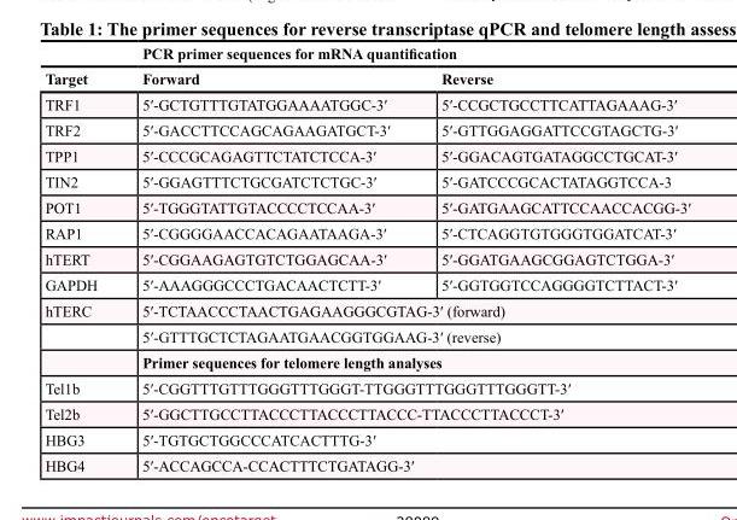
<table><thead><tr><td rowspan="2">Target</td><td colspan="2">PCR primer sequences for mRNA quantification</td></tr><tr><td>Forward</td><td>Reverse</td></tr></thead><tbody><tr><td>TRF1</td><td>5′-GCTGTTTGTATGGAAAATGGC-3′</td><td>5′-CCGCTGCCTTCATTAGAAAG-3′</td></tr><tr><td>TRF2</td><td>5′-GACCTTCCAGCAGAAGATGCT-3′</td><td>5′-GTTGGAGGATTCCGTAGCTG-3′</td></tr><tr><td>TPP1</td><td>5′-CCCGCAGAGTTCTATCTCCA-3′</td><td>5′-GGACAGTGATAGGCCTGCAT-3′</td></tr><tr><td>TIN2</td><td>5′-GGAGTTTCTGCGATCTCTGC-3′</td><td>5′-GATCCCGCACTATAGGTCCA-3</td></tr><tr><td>POT1</td><td>5′-TGGGTATTGTACCCCTCCAA-3′</td><td>5′-GATGAAGCATTCCAACCACGG-3′</td></tr><tr><td>RAP1</td><td>5′-CGGGGAACCACAGAATAAGA-3′</td><td>5′-CTCAGGTGTGGGTGGATCAT-3′</td></tr><tr><td>hTERT</td><td>5′-CGGAAGAGTGTCTGGAGCAA-3′</td><td>5′-GGATGAAGCGGAGTCTGGA-3′</td></tr><tr><td>GAPDH</td><td>5′-AAAGGGCCCTGACAACTCTT-3′</td><td>5′-GGTGGTCCAGGGGTCTTACT-3′</td></tr><tr><td rowspan="3">hTERC</td><td colspan="2">5′-TCTAACCCTAACTGAGAAGGGCGTAG-3′ (forward)</td></tr><tr><td colspan="2">5′-GTTTGCTCTAGAATGAACGGTGGAAG-3′ (reverse)</td></tr><tr><td colspan="2">Primer sequences for telomere length analyses</td></tr><tr><td>Tel1b</td><td colspan="2">5′-CGGTTTGTTTGGGTTTGGGT-TTGGGTTTGGGTTTGGGTT-3′</td></tr><tr><td>Tel2b</td><td colspan="2">5′-GGCTTGCCTTACCCTTACCCTTACCC-TTACCCTTACCCT-3′</td></tr><tr><td>HBG3</td><td colspan="2">5′-TGTGCTGGCCCATCACTTTG-3′</td></tr><tr><td>HBG4</td><td colspan="2">5′-ACCAGCCA-CCACTTTCTGATAGG-3′</td></tr></tbody></table>